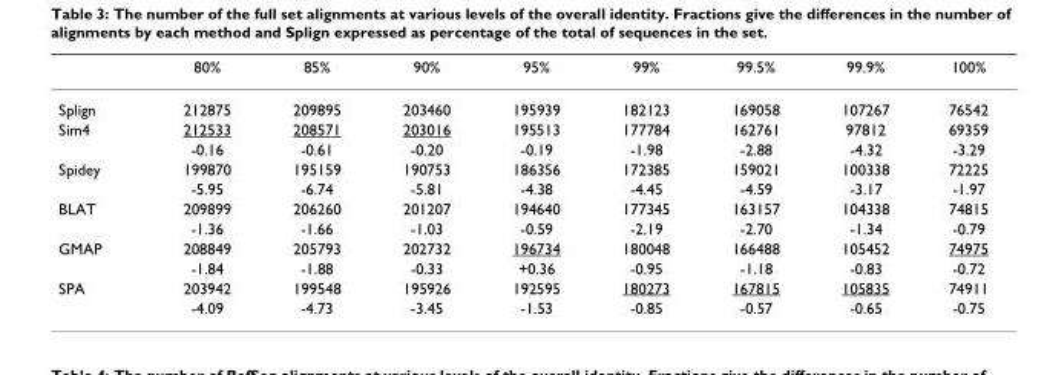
<table><thead><tr><td></td><td>80%</td><td>85%</td><td>90%</td><td>95%</td><td>99%</td><td>99.5%</td><td>99.9%</td><td>100%</td></tr></thead><tbody><tr><td>Splign</td><td>212875</td><td>209895</td><td>203460</td><td>195939</td><td>182123</td><td>169058</td><td>107267</td><td>76542</td></tr><tr><td rowspan="2">Sim4</td><td>212533</td><td>208571</td><td>203016</td><td>195513</td><td>177784</td><td>162761</td><td>97812</td><td>69359</td></tr><tr><td>-0.16</td><td>-0.61</td><td>-0.20</td><td>-0.19</td><td>-1.98</td><td>-2.88</td><td>-4.32</td><td>-3.29</td></tr><tr><td rowspan="2">Spidey</td><td>199870</td><td>195159</td><td>190753</td><td>186356</td><td>172385</td><td>159021</td><td>100338</td><td>72225</td></tr><tr><td>-5.95</td><td>-6.74</td><td>-5.81</td><td>-4.38</td><td>-4.45</td><td>-4.59</td><td>-3.17</td><td>-1.97</td></tr><tr><td rowspan="2">BLAT</td><td>209899</td><td>206260</td><td>201207</td><td>194640</td><td>177345</td><td>163157</td><td>104338</td><td>74815</td></tr><tr><td>-1.36</td><td>-1.66</td><td>-1.03</td><td>-0.59</td><td>-2.19</td><td>-2.70</td><td>-1.34</td><td>-0.79</td></tr><tr><td rowspan="2">GMAP</td><td>208849</td><td>205793</td><td>202732</td><td>196734</td><td>180048</td><td>166488</td><td>105452</td><td>74975</td></tr><tr><td>-1.84</td><td>-1.88</td><td>-0.33</td><td>+0.36</td><td>-0.95</td><td>-1.18</td><td>-0.83</td><td>-0.72</td></tr><tr><td rowspan="2">SPA</td><td>203942</td><td>199548</td><td>195926</td><td>192595</td><td>180273</td><td>167815</td><td>105835</td><td>74911</td></tr><tr><td>-4.09</td><td>-4.73</td><td>-3.45</td><td>-1.53</td><td>-0.85</td><td>-0.57</td><td>-0.65</td><td>-0.75</td></tr></tbody></table>